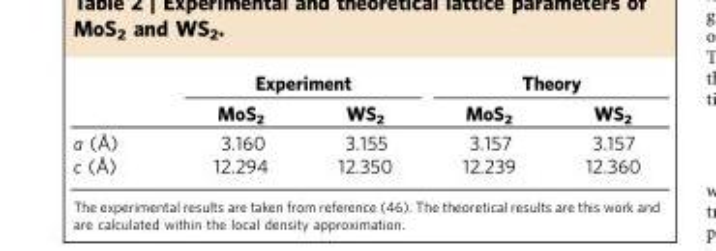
<table><thead><tr><td rowspan="2"></td><td colspan="2">Experiment</td><td colspan="2">Theory</td></tr><tr><td>MoS<sub>2</sub></td><td>WS<sub>2</sub></td><td>MoS<sub>2</sub></td><td>WS<sub>2</sub></td></tr></thead><tbody><tr><td>a (Å)</td><td>3.160</td><td>3.155</td><td>3.157</td><td>3.157</td></tr><tr><td>c (Å)</td><td>12.294</td><td>12.350</td><td>12.239</td><td>12.360</td></tr></tbody></table>